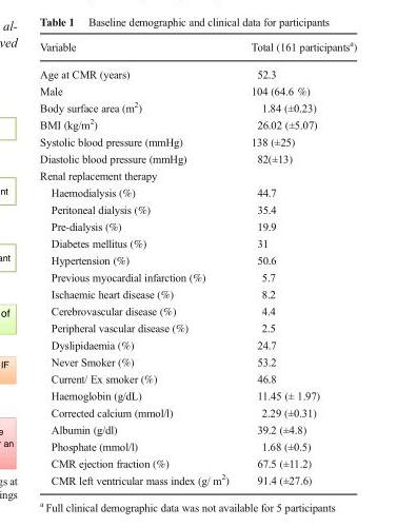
<table><thead><tr><td>Variable</td><td>Total (161 participants<sup>a</sup>)</td></tr></thead><tbody><tr><td>Age at CMR (years)</td><td>52.3</td></tr><tr><td>Male</td><td>104 (64.6 %)</td></tr><tr><td>Body surface area (m<sup>2</sup>)</td><td>1.84 (±0.23)</td></tr><tr><td>BMI (kg/m<sup>2</sup>)</td><td>26.02 (±5.07)</td></tr><tr><td>Systolic blood pressure (mmHg)</td><td>138 (±25)</td></tr><tr><td>Diastolic blood pressure (mmHg)</td><td>82(±13)</td></tr><tr><td colspan="2">Renal replacement therapy</td></tr><tr><td>Haemodialysis (%)</td><td>44.7</td></tr><tr><td>Peritoneal dialysis (%)</td><td>35.4</td></tr><tr><td>Pre-dialysis (%)</td><td>19.9</td></tr><tr><td>Diabetes mellitus (%)</td><td>31</td></tr><tr><td>Hypertension (%)</td><td>50.6</td></tr><tr><td>Previous myocardial infarction (%)</td><td>5.7</td></tr><tr><td>Ischaemic heart disease (%)</td><td>8.2</td></tr><tr><td>Cerebrovascular disease (%)</td><td>4.4</td></tr><tr><td>Peripheral vascular disease (%)</td><td>2.5</td></tr><tr><td>Dyslipidaemia (%)</td><td>24.7</td></tr><tr><td>Never Smoker (%)</td><td>53.2</td></tr><tr><td>Current/ Ex smoker (%)</td><td>46.8</td></tr><tr><td>Haemoglobin (g/dL)</td><td>11.45 (± 1.97)</td></tr><tr><td>Corrected calcium (mmol/l)</td><td>2.29 (±0.31)</td></tr><tr><td>Albumin (g/dl)</td><td>39.2 (±4.8)</td></tr><tr><td>Phosphate (mmol/l)</td><td>1.68 (±0.5)</td></tr><tr><td>CMR ejection fraction (%)</td><td>67.5 (±11.2)</td></tr><tr><td>CMR left ventricular mass index (g/ m<sup>2</sup>)</td><td>91.4 (±27.6)</td></tr></tbody></table>